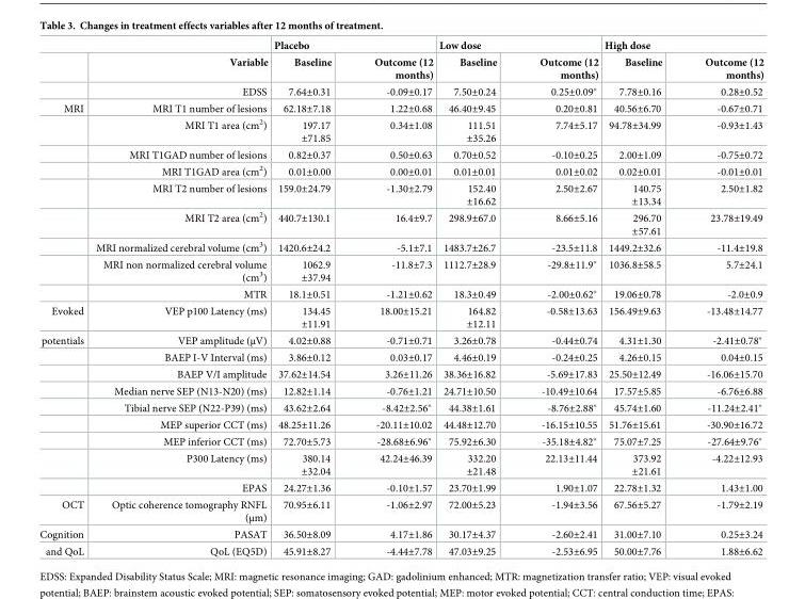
<table><thead><tr><td rowspan="2"></td><td rowspan="2">Variable</td><td colspan="2">Placebo</td><td colspan="2">Low dose</td><td colspan="2">High dose</td></tr><tr><td>Baseline</td><td>Outcome (12 months)</td><td>Baseline</td><td>Outcome (12 months)</td><td>Baseline</td><td>Outcome (12 months)</td></tr></thead><tbody><tr><td></td><td>EDSS</td><td>7.64±0.31</td><td>-0.09±0.17</td><td>7.50±0.24</td><td>0.25±0.09*</td><td>7.78±0.16</td><td>0.28±0.52</td></tr><tr><td rowspan="9">MRI</td><td>MRI T1 number of lesions</td><td>62.18±7.18</td><td>1.22±0.68</td><td>46.40±9.45</td><td>0.20±0.81</td><td>40.56±6.70</td><td>-0.67±0.71</td></tr><tr><td>MRI T1 area (cm<sup>2</sup>)</td><td>197.17 ±71.85</td><td>0.34±1.08</td><td>111.51 ±35.26</td><td>7.74±5.17</td><td>94.78±34.99</td><td>-0.93±1.43</td></tr><tr><td>MRI T1GAD number of lesions</td><td>0.82±0.37</td><td>0.50±0.63</td><td>0.70±0.52</td><td>-0.10±0.25</td><td>2.00±1.09</td><td>-0.75±0.72</td></tr><tr><td>MRI T1GAD area (cm<sup>2</sup>)</td><td>0.01±0.00</td><td>0.00±0.01</td><td>0.01±0.01</td><td>0.01±0.02</td><td>0.02±0.01</td><td>-0.01±0.01</td></tr><tr><td>MRI T2 number of lesions</td><td>159.0±24.79</td><td>-1.30±2.79</td><td>152.40 ±16.62</td><td>2.50±2.67</td><td>140.75 ±13.34</td><td>2.50±1.82</td></tr><tr><td>MRI T2 area (cm<sup>2</sup>)</td><td>440.7±130.1</td><td>16.4±9.7</td><td>298.9±67.0</td><td>8.66±5.16</td><td>296.70 ±57.61</td><td>23.78±19.49</td></tr><tr><td>MRI normalized cerebral volume (cm<sup>3</sup>)</td><td>1420.6±24.2</td><td>-5.1±7.1</td><td>1483.7±26.7</td><td>-23.5±11.8</td><td>1449.2±32.6</td><td>-11.4±19.8</td></tr><tr><td>MRI non normalized cerebral volume (cm<sup>3</sup>)</td><td>1062.9 ±37.94</td><td>-11.8±7.3</td><td>1112.7±28.9</td><td>-29.8±11.9*</td><td>1036.8±58.5</td><td>5.7±24.1</td></tr><tr><td>MTR</td><td>18.1±0.51</td><td>-1.21±0.62</td><td>18.3±0.49</td><td>-2.00±0.62*</td><td>19.06±0.78</td><td>-2.0±0.9</td></tr><tr><td>Evoked</td><td>VEP p100 Latency (ms)</td><td>134.45 ±11.91</td><td>18.00±15.21</td><td>164.82 ±12.11</td><td>-0.58±13.63</td><td>156.49±9.63</td><td>-13.48±14.77</td></tr><tr><td rowspan="9">potentials</td><td>VEP amplitude (µV)</td><td>4.02±0.88</td><td>-0.71±0.71</td><td>3.26±0.78</td><td>-0.44±0.74</td><td>4.31±1.30</td><td>-2.41±0.78*</td></tr><tr><td>BAEP I-V Interval (ms)</td><td>3.86±0.12</td><td>0.03±0.17</td><td>4.46±0.19</td><td>-0.24±0.25</td><td>4.26±0.15</td><td>0.04±0.15</td></tr><tr><td>BAEP V/I amplitude</td><td>37.62±14.54</td><td>3.26±11.26</td><td>38.36±16.82</td><td>-5.69±17.83</td><td>25.50±12.49</td><td>-16.06±15.70</td></tr><tr><td>Median nerve SEP (N13-N20) (ms)</td><td>12.82±1.14</td><td>-0.76±1.21</td><td>24.71±10.50</td><td>-10.49±10.64</td><td>17.57±5.85</td><td>-6.76±6.88</td></tr><tr><td>Tibial nerve SEP (N22-P39) (ms)</td><td>43.62±2.64</td><td>-8.42±2.56*</td><td>44.38±1.61</td><td>-8.76±2.88*</td><td>45.74±1.60</td><td>-11.24±2.41*</td></tr><tr><td>MEP superior CCT (ms)</td><td>48.25±11.26</td><td>-20.11±10.02</td><td>44.48±12.70</td><td>-16.15±10.55</td><td>51.76±15.61</td><td>-30.90±16.72</td></tr><tr><td>MEP inferior CCT (ms)</td><td>72.70±5.73</td><td>-28.68±6.96*</td><td>75.92±6.30</td><td>-35.18±4.82*</td><td>75.07±7.25</td><td>-27.64±9.76*</td></tr><tr><td>P300 Latency (ms)</td><td>380.14 ±32.04</td><td>42.24±46.39</td><td>332.20 ±21.48</td><td>22.13±11.44</td><td>373.92 ±21.61</td><td>-4.22±12.93</td></tr><tr><td>EPAS</td><td>24.27±1.36</td><td>-0.10±1.57</td><td>23.70±1.99</td><td>1.90±1.07</td><td>22.78±1.32</td><td>1.43±1.00</td></tr><tr><td>OCT</td><td>Optic coherence tomography RNFL (μm)</td><td>70.95±6.11</td><td>-1.06±2.97</td><td>72.00±5.23</td><td>-1.94±3.56</td><td>67.56±5.27</td><td>-1.79±2.19</td></tr><tr><td>Cognition</td><td>PASAT</td><td>36.50±8.09</td><td>4.17±1.86</td><td>30.17±4.37</td><td>-2.60±2.41</td><td>31.00±7.10</td><td>0.25±3.24</td></tr><tr><td>and QoL</td><td>QoL (EQ5D)</td><td>45.91±8.27</td><td>-4.44±7.78</td><td>47.03±9.25</td><td>-2.53±6.95</td><td>50.00±7.76</td><td>1.88±6.62</td></tr></tbody></table>